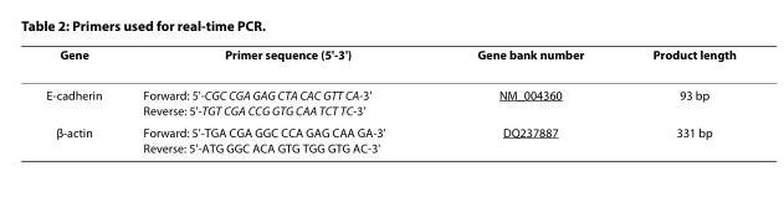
<table><thead><tr><td>Gene</td><td>Primer sequence (5&#x27;-3&#x27;)</td><td>Gene bank number</td><td>Product length</td></tr></thead><tbody><tr><td>E-cadherin</td><td>Forward: 5&#x27;-CGC CGA GAG CTA CAC GTT CA-3&#x27; Reverse: 5&#x27;-TGT CGA CCG GTG CAA TCT TC-3&#x27;</td><td>NM_004360</td><td>93 bp</td></tr><tr><td>β-actin</td><td>Forward: 5&#x27;-TGA CGA GGC CCA GAG CAA GA-3&#x27; Reverse: 5&#x27;-ATG GGC ACA GTG TGG GTG AC-3&#x27;</td><td>DQ237887</td><td>331 bp</td></tr></tbody></table>